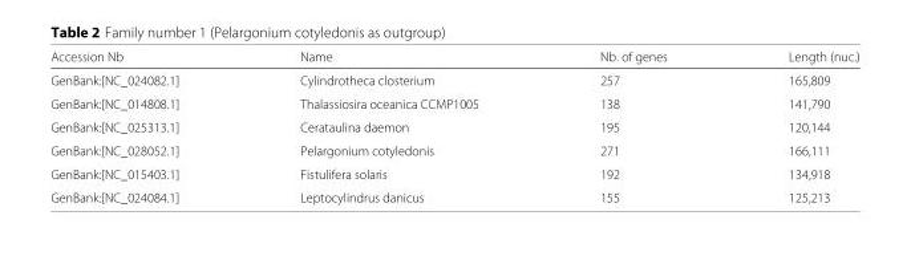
<table><thead><tr><td>Accession Nb</td><td>Name</td><td>Nb. of genes</td><td>Length (nuc.)</td></tr></thead><tbody><tr><td>GenBank:[NC_024082.1]</td><td>Cylindrotheca closterium</td><td>257</td><td>165,809</td></tr><tr><td>GenBank:[NC_014808.1]</td><td>Thalassiosira oceanica CCMP1005</td><td>138</td><td>141,790</td></tr><tr><td>GenBank:[NC_025313.1]</td><td>Cerataulina daemon</td><td>195</td><td>120,144</td></tr><tr><td>GenBank:[NC_028052.1]</td><td>Pelargonium cotyledonis</td><td>271</td><td>166,111</td></tr><tr><td>GenBank:[NC_015403.1]</td><td>Fistulifera solaris</td><td>192</td><td>134,918</td></tr><tr><td>GenBank:[NC_024084.1]</td><td>Leptocylindrus danicus</td><td>155</td><td>125,213</td></tr></tbody></table>